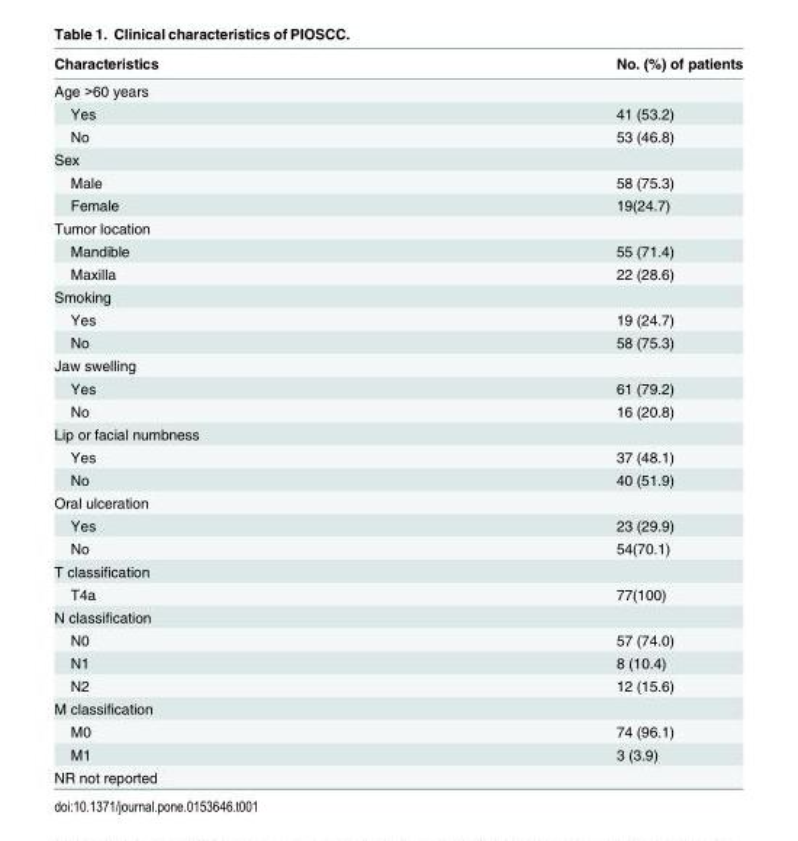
<table><thead><tr><td>Characteristics</td><td>No. (%) of patients</td></tr></thead><tbody><tr><td colspan="2">Age &gt;60 years</td></tr><tr><td>Yes</td><td>41 (53.2)</td></tr><tr><td>No</td><td>53 (46.8)</td></tr><tr><td colspan="2">Sex</td></tr><tr><td>Male</td><td>58 (75.3)</td></tr><tr><td>Female</td><td>19(24.7)</td></tr><tr><td colspan="2">Tumor location</td></tr><tr><td>Mandible</td><td>55 (71.4)</td></tr><tr><td>Maxilla</td><td>22 (28.6)</td></tr><tr><td colspan="2">Smoking</td></tr><tr><td>Yes</td><td>19 (24.7)</td></tr><tr><td>No</td><td>58 (75.3)</td></tr><tr><td colspan="2">Jaw swelling</td></tr><tr><td>Yes</td><td>61 (79.2)</td></tr><tr><td>No</td><td>16 (20.8)</td></tr><tr><td colspan="2">Lip or facial numbness</td></tr><tr><td>Yes</td><td>37 (48.1)</td></tr><tr><td>No</td><td>40 (51.9)</td></tr><tr><td colspan="2">Oral ulceration</td></tr><tr><td>Yes</td><td>23 (29.9)</td></tr><tr><td>No</td><td>54(70.1)</td></tr><tr><td colspan="2">T classification</td></tr><tr><td>T4a</td><td>77(100)</td></tr><tr><td colspan="2">N classification</td></tr><tr><td>N0</td><td>57 (74.0)</td></tr><tr><td>N1</td><td>8 (10.4)</td></tr><tr><td>N2</td><td>12 (15.6)</td></tr><tr><td colspan="2">M classification</td></tr><tr><td>M0</td><td>74 (96.1)</td></tr><tr><td>M1</td><td>3 (3.9)</td></tr><tr><td>NR not reported</td><td></td></tr></tbody></table>